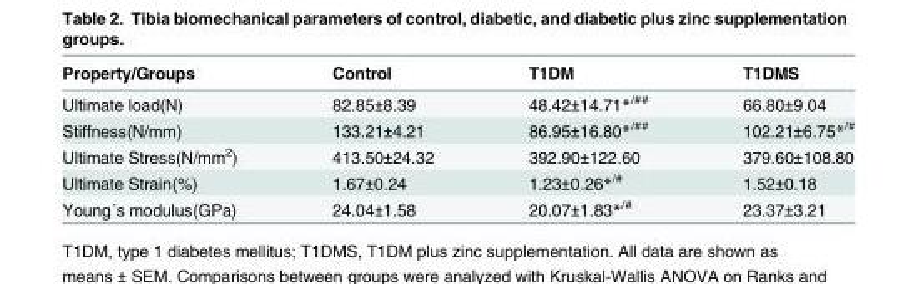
<table><thead><tr><td>Property/Groups</td><td>Control</td><td>T1DM</td><td>T1DMS</td></tr></thead><tbody><tr><td>Ultimate load(N)</td><td>82.85±8.39</td><td>48.42±14.71*<sup>/##</sup></td><td>66.80±9.04</td></tr><tr><td>Stiffness(N/mm)</td><td>133.21±4.21</td><td>86.95±16.80*<sup>/##</sup></td><td>102.21±6.75*<sup>/#</sup></td></tr><tr><td>Ultimate Stress(N/mm<sup>2</sup>)</td><td>413.50±24.32</td><td>392.90±122.60</td><td>379.60±108.80</td></tr><tr><td>Ultimate Strain(%)</td><td>1.67±0.24</td><td>1.23±0.26*<sup>/#</sup></td><td>1.52±0.18</td></tr><tr><td>Young´s modulus(GPa)</td><td>24.04±1.58</td><td>20.07±1.83*<sup>/#</sup></td><td>23.37±3.21</td></tr></tbody></table>